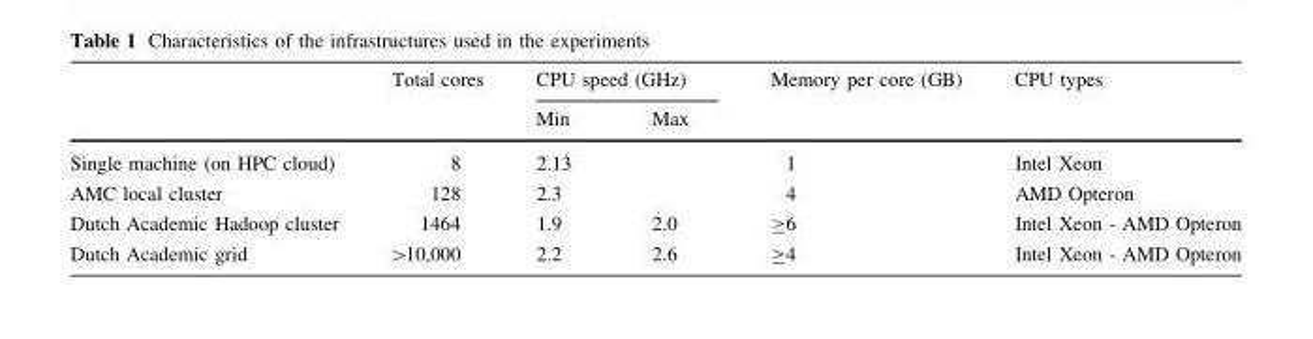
<table><thead><tr><td rowspan="2"></td><td rowspan="2">Total cores</td><td colspan="2">CPU speed (GHz)</td><td rowspan="2">Memory per core (GB)</td><td rowspan="2">CPU types</td></tr><tr><td>Min</td><td>Max</td></tr></thead><tbody><tr><td>Single machine (on HPC cloud)</td><td>8</td><td colspan="2">2.13</td><td>1</td><td>Intel Xeon</td></tr><tr><td>AMC local cluster</td><td>128</td><td colspan="2">2.3</td><td>4</td><td>AMD Opteron</td></tr><tr><td>Dutch Academic Hadoop cluster</td><td>1464</td><td>1.9</td><td>2.0</td><td>≥6</td><td>Intel Xeon - AMD Opteron</td></tr><tr><td>Dutch Academic grid</td><td>&gt;10,000</td><td>2.2</td><td>2.6</td><td>≥4</td><td>Intel Xeon - AMD Opteron</td></tr></tbody></table>